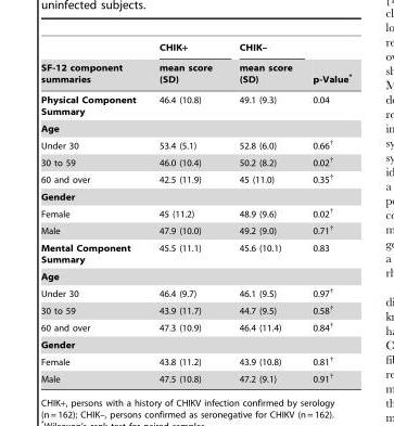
<table><thead><tr><td rowspan="2">SF-12 component summaries</td><td rowspan="2">CHIK+ mean score (SD)</td><td rowspan="2">CHIK– mean score (SD)</td><td rowspan="2">p-Value*</td></tr><tr></tr></thead><tbody><tr><td>Physical Component Summary</td><td>46.4 (10.8)</td><td>49.1 (9.3)</td><td>0.04</td></tr><tr><td colspan="4">Age</td></tr><tr><td>Under 30</td><td>53.4 (5.1)</td><td>52.8 (6.0)</td><td>0.66†</td></tr><tr><td>30 to 59</td><td>46.0 (10.4)</td><td>50.2 (8.2)</td><td>0.02†</td></tr><tr><td>60 and over</td><td>42.5 (11.9)</td><td>45 (11.0)</td><td>0.35†</td></tr><tr><td colspan="4">Gender</td></tr><tr><td>Female</td><td>45 (11.2)</td><td>48.9 (9.6)</td><td>0.02†</td></tr><tr><td>Male</td><td>47.9 (10.0)</td><td>49.2 (9.0)</td><td>0.71†</td></tr><tr><td>Mental Component Summary</td><td>45.5 (11.1)</td><td>45.6 (10.1)</td><td>0.83</td></tr><tr><td colspan="4">Age</td></tr><tr><td>Under 30</td><td>46.4 (9.7)</td><td>46.1 (9.5)</td><td>0.97†</td></tr><tr><td>30 to 59</td><td>43.9 (11.7)</td><td>44.7 (9.5)</td><td>0.58†</td></tr><tr><td>60 and over</td><td>47.3 (10.9)</td><td>46.4 (11.4)</td><td>0.84†</td></tr><tr><td colspan="4">Gender</td></tr><tr><td>Female</td><td>43.8 (11.2)</td><td>43.9 (10.8)</td><td>0.81†</td></tr><tr><td>Male</td><td>47.5 (10.8)</td><td>47.2 (9.1)</td><td>0.91†</td></tr></tbody></table>